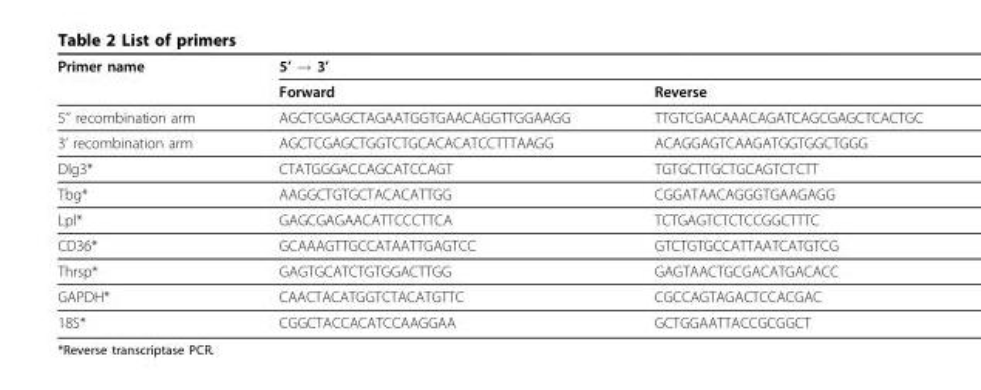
<table><thead><tr><td rowspan="2">Primer name</td><td rowspan="2">5’ → 3’ Forward</td><td rowspan="2">Reverse</td></tr><tr></tr></thead><tbody><tr><td>5’’ recombination arm</td><td>AGCTCGAGCTAGAATGGTGAACAGGTTGGAAGG</td><td>TTGTCGACAAACAGATCAGCGAGCTCACTGC</td></tr><tr><td>3’ recombination arm</td><td>AGCTCGAGCTGGTCTGCACACATCCTTTAAGG</td><td>ACAGGAGTCAAGATGGTGGCTGGG</td></tr><tr><td>Dlg3*</td><td>CTATGGGACCAGCATCCAGT</td><td>TGTGCTTGCTGCAGTCTCTT</td></tr><tr><td>Tbg*</td><td>AAGGCTGTGCTACACATTGG</td><td>CGGATAACAGGGTGAAGAGG</td></tr><tr><td>Lpl*</td><td>GAGCGAGAACATTCCCTTCA</td><td>TCTGAGTCTCTCCGGCTTTC</td></tr><tr><td>CD36*</td><td>GCAAAGTTGCCATAATTGAGTCC</td><td>GTCTGTGCCATTAATCATGTCG</td></tr><tr><td>Thrsp*</td><td>GAGTGCATCTGTGGACTTGG</td><td>GAGTAACTGCGACATGACACC</td></tr><tr><td>GAPDH*</td><td>CAACTACATGGTCTACATGTTC</td><td>CGCCAGTAGACTCCACGAC</td></tr><tr><td>18S*</td><td>CGGCTACCACATCCAAGGAA</td><td>GCTGGAATTACCGCGGCT</td></tr></tbody></table>